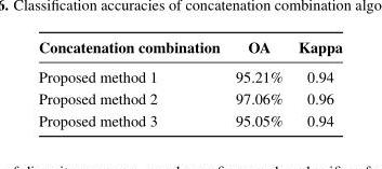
<table><thead><tr><td>Concatenation combination</td><td>OA</td><td>Kappa</td></tr></thead><tbody><tr><td>Proposed method 1</td><td>95.21%</td><td>0.94</td></tr><tr><td>Proposed method 2</td><td>97.06%</td><td>0.96</td></tr><tr><td>Proposed method 3</td><td>95.05%</td><td>0.94</td></tr></tbody></table>